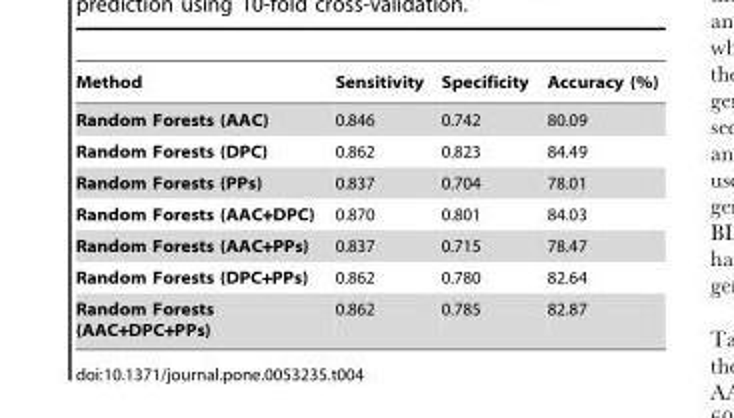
<table><thead><tr><td>Method</td><td>Sensitivity</td><td>Specificity</td><td>Accuracy (%)</td></tr></thead><tbody><tr><td>Random Forests (AAC)</td><td>0.846</td><td>0.742</td><td>80.09</td></tr><tr><td>Random Forests (DPC)</td><td>0.862</td><td>0.823</td><td>84.49</td></tr><tr><td>Random Forests (PPs)</td><td>0.837</td><td>0.704</td><td>78.01</td></tr><tr><td>Random Forests (AAC+DPC)</td><td>0.870</td><td>0.801</td><td>84.03</td></tr><tr><td>Random Forests (AAC+PPs)</td><td>0.837</td><td>0.715</td><td>78.47</td></tr><tr><td>Random Forests (DPC+PPs)</td><td>0.862</td><td>0.780</td><td>82.64</td></tr><tr><td>Random Forests (AAC+DPC+PPs)</td><td>0.862</td><td>0.785</td><td>82.87</td></tr></tbody></table>